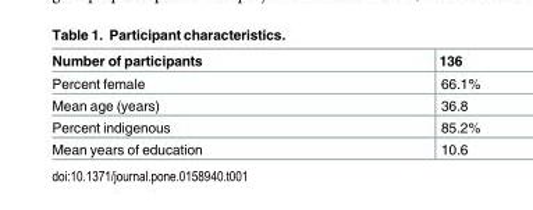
<table><thead><tr><td>Number of participants</td><td>136</td></tr></thead><tbody><tr><td>Percent female</td><td>66.1%</td></tr><tr><td>Mean age (years)</td><td>36.8</td></tr><tr><td>Percent indigenous</td><td>85.2%</td></tr><tr><td>Mean years of education</td><td>10.6</td></tr></tbody></table>